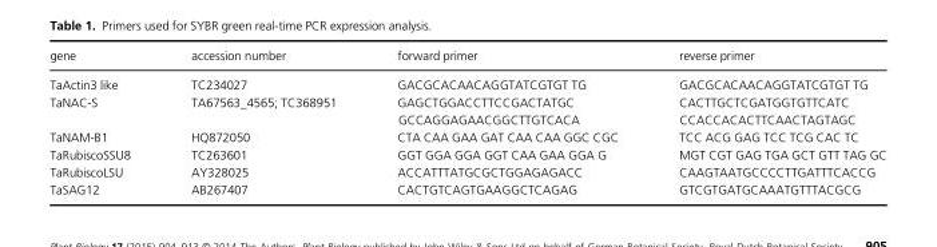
<table><thead><tr><td>gene</td><td>accession number</td><td>forward primer</td><td>reverse primer</td></tr></thead><tbody><tr><td>TaActin3 like</td><td>TC234027</td><td>GACGCACAACAGGTATCGTGT TG</td><td>GACGCACAACAGGTATCGTGT TG</td></tr><tr><td>TaNAC-S</td><td>TA67563_4565; TC368951</td><td>GAGCTGGACCTTCCGACTATGC GCCAGGAGAACGGCTTGTCACA</td><td>CACTTGCTCGATGGTGTTCATC CCACCACACTTCAACTAGTAGC</td></tr><tr><td>TaNAM-B1</td><td>HQ872050</td><td>CTA CAA GAA GAT CAA CAA GGC CGC</td><td>TCC ACG GAG TCC TCG CAC TC</td></tr><tr><td>TaRubiscoSSU8</td><td>TC263601</td><td>GGT GGA GGA GGT CAA GAA GGA G</td><td>MGT CGT GAG TGA GCT GTT TAG GC</td></tr><tr><td>TaRubiscoLSU</td><td>AY328025</td><td>ACCATTTATGCGCTGGAGAGACC</td><td>CAAGTAATGCCCCTTGATTTCACCG</td></tr><tr><td>TaSAG12</td><td>AB267407</td><td>CACTGTCAGTGAAGGCTCAGAG</td><td>GTCGTGATGCAAATGTTTACGCG</td></tr></tbody></table>